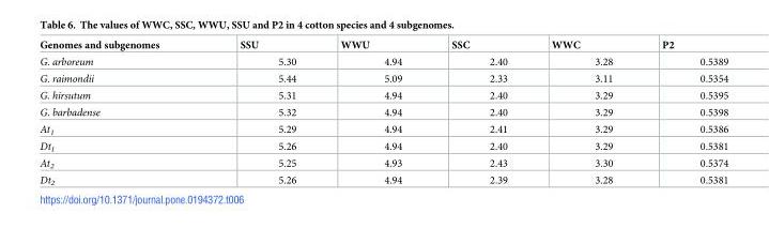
<table><thead><tr><td>Genomes and subgenomes</td><td>SSU</td><td>WWU</td><td>SSC</td><td>WWC</td><td>P2</td></tr></thead><tbody><tr><td>G. arboreum</td><td>5.30</td><td>4.94</td><td>2.40</td><td>3.28</td><td>0.5389</td></tr><tr><td>G. raimondii</td><td>5.44</td><td>5.09</td><td>2.33</td><td>3.11</td><td>0.5354</td></tr><tr><td>G. hirsutum</td><td>5.31</td><td>4.94</td><td>2.40</td><td>3.29</td><td>0.5395</td></tr><tr><td>G. barbadense</td><td>5.32</td><td>4.94</td><td>2.40</td><td>3.29</td><td>0.5398</td></tr><tr><td>At<sub>1</sub></td><td>5.29</td><td>4.94</td><td>2.41</td><td>3.29</td><td>0.5386</td></tr><tr><td>Dt<sub>1</sub></td><td>5.26</td><td>4.94</td><td>2.40</td><td>3.29</td><td>0.5381</td></tr><tr><td>At<sub>2</sub></td><td>5.25</td><td>4.93</td><td>2.43</td><td>3.30</td><td>0.5374</td></tr><tr><td>Dt<sub>2</sub></td><td>5.26</td><td>4.94</td><td>2.39</td><td>3.28</td><td>0.5381</td></tr></tbody></table>